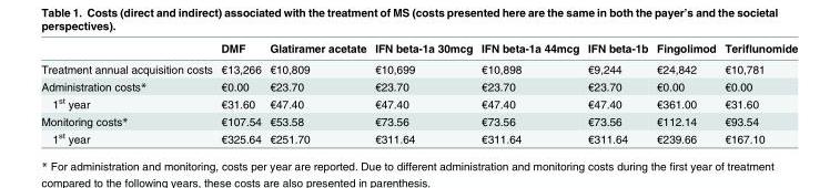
<table><thead><tr><td></td><td>DMF</td><td>Glatiramer acetate</td><td>IFN beta-1a 30mcg</td><td>IFN beta-1a 44mcg</td><td>IFN beta-1b</td><td>Fingolimod</td><td>Teriflunomide</td></tr></thead><tbody><tr><td>Treatment annual acquisition costs</td><td>€13,266</td><td>€10,809</td><td>€10,699</td><td>€10,898</td><td>€9,244</td><td>€24,842</td><td>€10,781</td></tr><tr><td>Administration costs*</td><td>€0.00</td><td>€23.70</td><td>€23.70</td><td>€23.70</td><td>€23.70</td><td>€0.00</td><td>€0.00</td></tr><tr><td>1<sup>st</sup> year</td><td>€31.60</td><td>€47.40</td><td>€47.40</td><td>€47.40</td><td>€47.40</td><td>€361.00</td><td>€31.60</td></tr><tr><td>Monitoring costs*</td><td>€107.54</td><td>€53.58</td><td>€73.56</td><td>€73.56</td><td>€73.56</td><td>€112.14</td><td>€93.54</td></tr><tr><td>1<sup>st</sup> year</td><td>€325.64</td><td>€251.70</td><td>€311.64</td><td>€311.64</td><td>€311.64</td><td>€239.66</td><td>€167.10</td></tr></tbody></table>